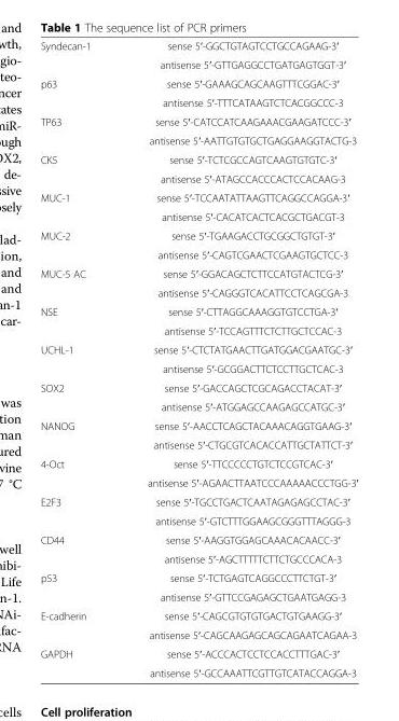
<table><tbody><tr><td rowspan="2">Syndecan-1</td><td>sense 5′-GGCTGTAGTCCTGCCAGAAG-3′</td></tr><tr><td>antisense 5′-GTTGAGGCCTGATGAGTGGT-3′</td></tr><tr><td rowspan="2">p63</td><td>sense 5′-GAAAGCAGCAAGTTTCGGAC-3′</td></tr><tr><td>antisense 5′-TTTCATAAGTCTCACGGCCC-3</td></tr><tr><td rowspan="2">TP63</td><td>sense 5′-CATCCATCAAGAAACGAAGATCCC-3′</td></tr><tr><td>antisense 5′-AATTGTGTGCTGAGGAAGGTACTG-3</td></tr><tr><td rowspan="2">CK5</td><td>sense 5′-TCTCGCCAGTCAAGTGTGTC-3′</td></tr><tr><td>antisense 5′-ATAGCCACCCACTCCACAAG-3</td></tr><tr><td rowspan="2">MUC-1</td><td>sense 5′-TCCAATATTAAGTTCAGGCCAGGA-3′</td></tr><tr><td>antisense 5′-CACATCACTCACGCTGACGT-3</td></tr><tr><td rowspan="2">MUC-2</td><td>sense 5′-TGAAGACCTGCGGCTGTGT-3′</td></tr><tr><td>antisense 5′-CAGTCGAACTCGAAGTGCTCC-3</td></tr><tr><td rowspan="2">MUC-5 AC</td><td>sense 5′-GGACAGCTCTTCCATGTACTCG-3′</td></tr><tr><td>antisense 5′-CAGGGTCACATTCCTCAGCGA-3</td></tr><tr><td rowspan="2">NSE</td><td>sense 5′-CTTAGGCAAAGGTGTCCTGA-3′</td></tr><tr><td>antisense 5′-TCCAGTTTCTCTTGCTCCAC-3</td></tr><tr><td rowspan="2">UCHL-1</td><td>sense 5′-CTCTATGAACTTGATGGACGAATGC-3′</td></tr><tr><td>antisense 5′-GCGGACTTCTCCTTGCTCAC-3</td></tr><tr><td rowspan="2">SOX2</td><td>sense 5′-GACCAGCTCGCAGACCTACAT-3′</td></tr><tr><td>antisense 5′-ATGGAGCCAAGAGCCATGC-3′</td></tr><tr><td rowspan="2">NANOG</td><td>sense 5′-AACCTCAGCTACAAACAGGTGAAG-3′</td></tr><tr><td>antisense 5′-CTGCGTCACACCATTGCTATTCT-3′</td></tr><tr><td rowspan="2">4-Oct</td><td>sense 5′-TTCCCCCTGTCTCCGTCAC-3′</td></tr><tr><td>antisense 5′-AGAACTTAATCCCAAAAACCCTGG-3′</td></tr><tr><td rowspan="2">E2F3</td><td>sense 5′-TGCCTGACTCAATAGAGAGCCTAC-3′</td></tr><tr><td>antisense 5′-GTCTTTGGAAGCGGGTTTAGGG-3</td></tr><tr><td rowspan="2">CD44</td><td>sense 5′-AAGGTGGAGCAAACACAACC-3′</td></tr><tr><td>antisense 5′-AGCTTTTTCTTCTGCCCACA-3</td></tr><tr><td rowspan="2">p53</td><td>sense 5′-TCTGAGTCAGGCCCTTCTGT-3′</td></tr><tr><td>antisense 5′-GTTCCGAGAGCTGAATGAGG-3</td></tr><tr><td rowspan="2">E-cadherin</td><td>sense 5′-CAGCGTGTGTGACTGTGAAGG-3′</td></tr><tr><td>antisense 5′-CAGCAAGAGCAGCAGAATCAGAA-3</td></tr><tr><td rowspan="2">GAPDH</td><td>sense 5′-ACCCACTCCTCCACCTTTGAC-3′</td></tr><tr><td>antisense 5′-GCCAAATTCGTTGTCATACCAGGA-3</td></tr></tbody></table>